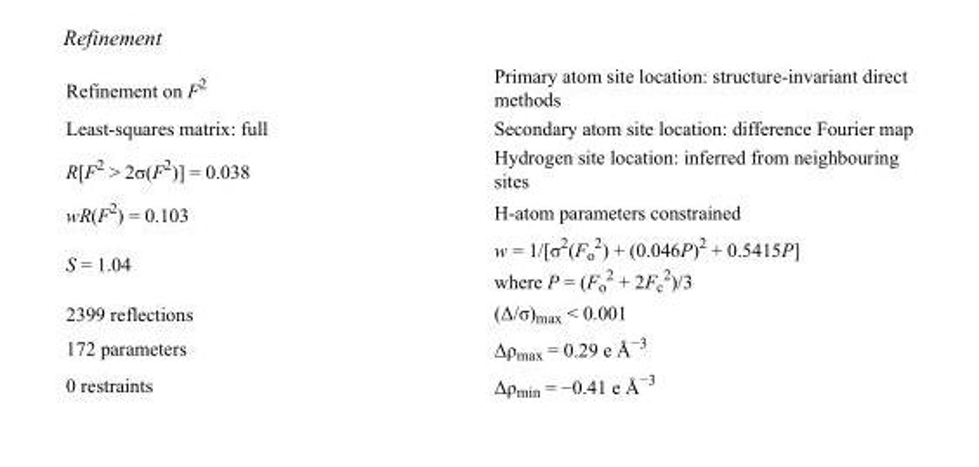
<table><tbody><tr><td>Refinement on F<sup>2</sup></td><td>Primary atom site location: structure-invariant direct methods</td></tr><tr><td>Least-squares matrix: full</td><td>Secondary atom site location: difference Fourier map</td></tr><tr><td>R[F<sup>2</sup> &gt; 2σ(F<sup>2</sup>)] = 0.038</td><td>Hydrogen site location: inferred from neighbouring sites</td></tr><tr><td>wR(F<sup>2</sup>) = 0.103</td><td>H-atom parameters constrained</td></tr><tr><td>S = 1.04</td><td>w = 1/[σ<sup>2</sup>(F<sub>o</sub> <sup>2</sup>) + (0.046P)<sup>2</sup> + 0.5415P] where P = (F<sub>o</sub> <sup>2</sup> + 2F<sub>c</sub> <sup>2</sup>)/3</td></tr><tr><td>2399 reflections</td><td>(Δ/σ)<sub>max</sub> &lt; 0.001</td></tr><tr><td>172 parameters</td><td>Δρ<sub>max</sub> = 0.29 e Å<sup>−3</sup></td></tr><tr><td>0 restraints</td><td>Δρ<sub>min</sub> = −0.41 e Å<sup>−3</sup></td></tr></tbody></table>